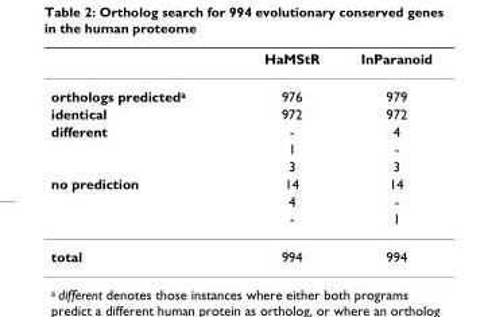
<table><thead><tr><td></td><td>HaMStR</td><td>InParanoid</td></tr></thead><tbody><tr><td>orthologs predicted<sup>a</sup></td><td>976</td><td>979</td></tr><tr><td>identical</td><td>972</td><td>972</td></tr><tr><td rowspan="3">different</td><td>-</td><td>4</td></tr><tr><td>1</td><td>-</td></tr><tr><td>3</td><td>3</td></tr><tr><td rowspan="3">no prediction</td><td>14</td><td>14</td></tr><tr><td>4</td><td>-</td></tr><tr><td>-</td><td>1</td></tr><tr><td>total</td><td>994</td><td>994</td></tr></tbody></table>